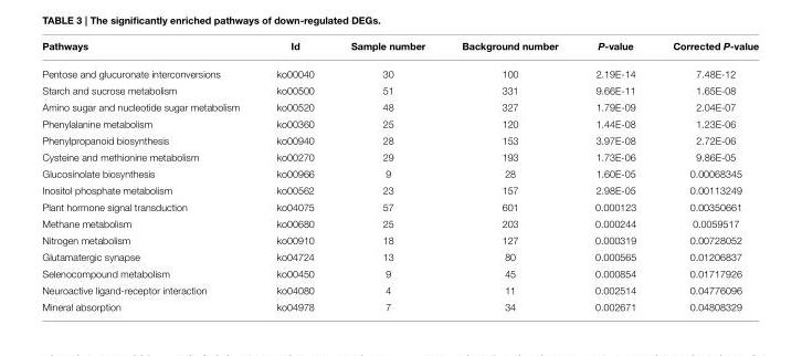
<table><thead><tr><td>Pathways</td><td>Id</td><td>Sample number</td><td>Background number</td><td>P-value</td><td>Corrected P-value</td></tr></thead><tbody><tr><td>Pentose and glucuronate interconversions</td><td>ko00040</td><td>30</td><td>100</td><td>2.19E-14</td><td>7.48E-12</td></tr><tr><td>Starch and sucrose metabolism</td><td>ko00500</td><td>51</td><td>331</td><td>9.66E-11</td><td>1.65E-08</td></tr><tr><td>Amino sugar and nucleotide sugar metabolism</td><td>ko00520</td><td>48</td><td>327</td><td>1.79E-09</td><td>2.04E-07</td></tr><tr><td>Phenylalanine metabolism</td><td>ko00360</td><td>25</td><td>120</td><td>1.44E-08</td><td>1.23E-06</td></tr><tr><td>Phenylpropanoid biosynthesis</td><td>ko00940</td><td>28</td><td>153</td><td>3.97E-08</td><td>2.72E-06</td></tr><tr><td>Cysteine and methionine metabolism</td><td>ko00270</td><td>29</td><td>193</td><td>1.73E-06</td><td>9.86E-05</td></tr><tr><td>Glucosinolate biosynthesis</td><td>ko00966</td><td>9</td><td>28</td><td>1.60E-05</td><td>0.00068345</td></tr><tr><td>Inositol phosphate metabolism</td><td>ko00562</td><td>23</td><td>157</td><td>2.98E-05</td><td>0.00113249</td></tr><tr><td>Plant hormone signal transduction</td><td>ko04075</td><td>57</td><td>601</td><td>0.000123</td><td>0.00350661</td></tr><tr><td>Methane metabolism</td><td>ko00680</td><td>25</td><td>203</td><td>0.000244</td><td>0.0059517</td></tr><tr><td>Nitrogen metabolism</td><td>ko00910</td><td>18</td><td>127</td><td>0.000319</td><td>0.00728052</td></tr><tr><td>Glutamatergic synapse</td><td>ko04724</td><td>13</td><td>80</td><td>0.000565</td><td>0.01206837</td></tr><tr><td>Selenocompound metabolism</td><td>ko00450</td><td>9</td><td>45</td><td>0.000854</td><td>0.01717926</td></tr><tr><td>Neuroactive ligand-receptor interaction</td><td>ko04080</td><td>4</td><td>11</td><td>0.002514</td><td>0.04776096</td></tr><tr><td>Mineral absorption</td><td>ko04978</td><td>7</td><td>34</td><td>0.002671</td><td>0.04808329</td></tr></tbody></table>